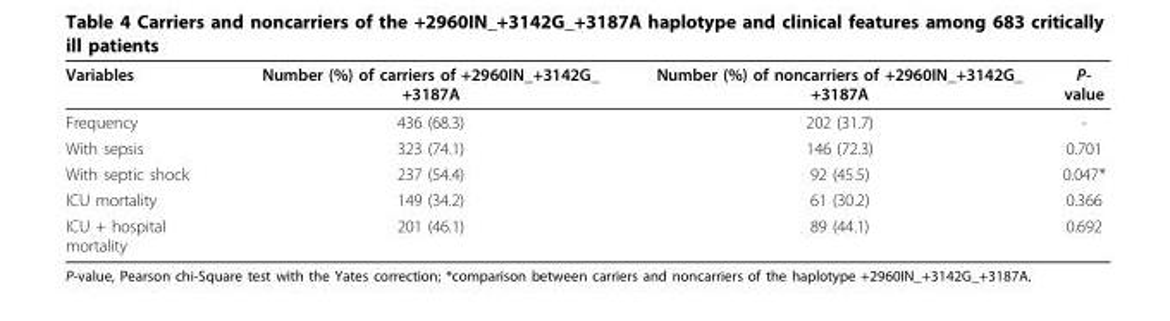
<table><thead><tr><td>Variables</td><td>Number (%) of carriers of +2960IN_+3142G_ +3187A</td><td>Number (%) of noncarriers of +2960IN_+3142G_ +3187A</td><td>P- value</td></tr></thead><tbody><tr><td>Frequency</td><td>436 (68.3)</td><td>202 (31.7)</td><td>-</td></tr><tr><td>With sepsis</td><td>323 (74.1)</td><td>146 (72.3)</td><td>0.701</td></tr><tr><td>With septic shock</td><td>237 (54.4)</td><td>92 (45.5)</td><td>0.047*</td></tr><tr><td>ICU mortality</td><td>149 (34.2)</td><td>61 (30.2)</td><td>0.366</td></tr><tr><td>ICU + hospital mortality</td><td>201 (46.1)</td><td>89 (44.1)</td><td>0.692</td></tr></tbody></table>